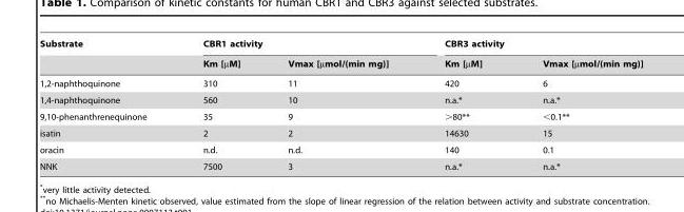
<table><thead><tr><td rowspan="2">Substrate</td><td colspan="2">CBR1 activity</td><td colspan="2">CBR3 activity</td></tr><tr><td>Km [µM]</td><td>Vmax [µmol/(min mg)]</td><td>Km [µM]</td><td>Vmax [µmol/(min mg)]</td></tr></thead><tbody><tr><td>1,2-naphthoquinone</td><td>310</td><td>11</td><td>420</td><td>6</td></tr><tr><td>1,4-naphthoquinone</td><td>560</td><td>10</td><td>n.a.*</td><td>n.a.*</td></tr><tr><td>9,10-phenanthrenequinone</td><td>35</td><td>9</td><td>&gt;80**</td><td>&lt;0.1**</td></tr><tr><td>isatin</td><td>2</td><td>2</td><td>14630</td><td>15</td></tr><tr><td>oracin</td><td>n.d.</td><td>n.d.</td><td>140</td><td>0.1</td></tr><tr><td>NNK</td><td>7500</td><td>3</td><td>n.a.*</td><td>n.a.*</td></tr></tbody></table>